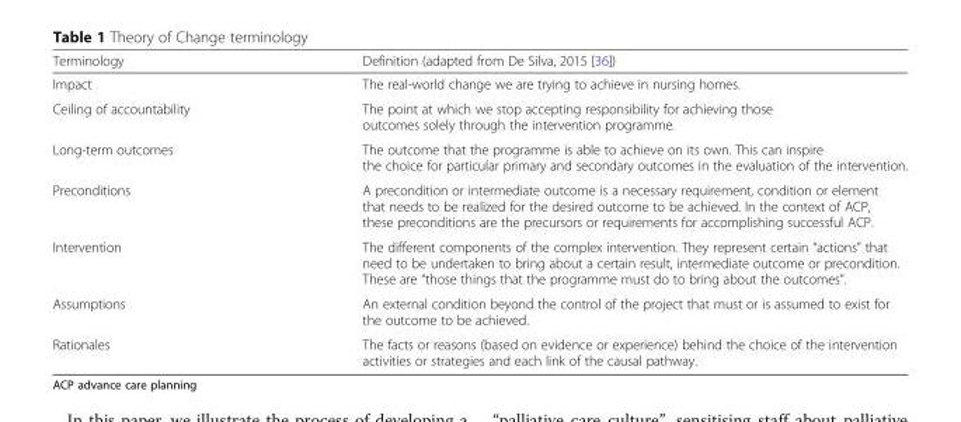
<table><thead><tr><td>Terminology</td><td>Definition (adapted from De Silva, 2015 [36])</td></tr></thead><tbody><tr><td>Impact</td><td>The real-world change we are trying to achieve in nursing homes.</td></tr><tr><td>Ceiling of accountability</td><td>The point at which we stop accepting responsibility for achieving those outcomes solely through the intervention programme.</td></tr><tr><td>Long-term outcomes</td><td>The outcome that the programme is able to achieve on its own. This can inspire the choice for particular primary and secondary outcomes in the evaluation of the intervention.</td></tr><tr><td>Preconditions</td><td>A precondition or intermediate outcome is a necessary requirement, condition or element that needs to be realized for the desired outcome to be achieved. In the context of ACP, these preconditions are the precursors or requirements for accomplishing successful ACP.</td></tr><tr><td>Intervention</td><td>The different components of the complex intervention. They represent certain “actions” that need to be undertaken to bring about a certain result, intermediate outcome or precondition. These are “those things that the programme must do to bring about the outcomes”.</td></tr><tr><td>Assumptions</td><td>An external condition beyond the control of the project that must or is assumed to exist for the outcome to be achieved.</td></tr><tr><td>Rationales</td><td>The facts or reasons (based on evidence or experience) behind the choice of the intervention activities or strategies and each link of the causal pathway.</td></tr></tbody></table>